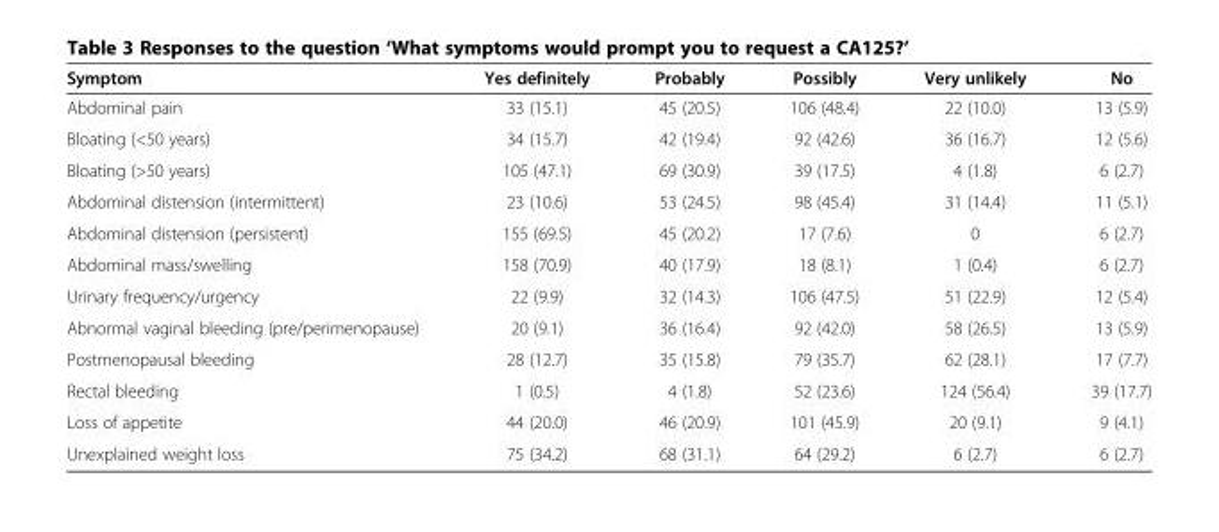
<table><thead><tr><td>Symptom</td><td>Yes definitely</td><td>Probably</td><td>Possibly</td><td>Very unlikely</td><td>No</td></tr></thead><tbody><tr><td>Abdominal pain</td><td>33 (15.1)</td><td>45 (20.5)</td><td>106 (48.4)</td><td>22 (10.0)</td><td>13 (5.9)</td></tr><tr><td>Bloating (&lt;50 years)</td><td>34 (15.7)</td><td>42 (19.4)</td><td>92 (42.6)</td><td>36 (16.7)</td><td>12 (5.6)</td></tr><tr><td>Bloating (&gt;50 years)</td><td>105 (47.1)</td><td>69 (30.9)</td><td>39 (17.5)</td><td>4 (1.8)</td><td>6 (2.7)</td></tr><tr><td>Abdominal distension (intermittent)</td><td>23 (10.6)</td><td>53 (24.5)</td><td>98 (45.4)</td><td>31 (14.4)</td><td>11 (5.1)</td></tr><tr><td>Abdominal distension (persistent)</td><td>155 (69.5)</td><td>45 (20.2)</td><td>17 (7.6)</td><td>0</td><td>6 (2.7)</td></tr><tr><td>Abdominal mass/swelling</td><td>158 (70.9)</td><td>40 (17.9)</td><td>18 (8.1)</td><td>1 (0.4)</td><td>6 (2.7)</td></tr><tr><td>Urinary frequency/urgency</td><td>22 (9.9)</td><td>32 (14.3)</td><td>106 (47.5)</td><td>51 (22.9)</td><td>12 (5.4)</td></tr><tr><td>Abnormal vaginal bleeding (pre/perimenopause)</td><td>20 (9.1)</td><td>36 (16.4)</td><td>92 (42.0)</td><td>58 (26.5)</td><td>13 (5.9)</td></tr><tr><td>Postmenopausal bleeding</td><td>28 (12.7)</td><td>35 (15.8)</td><td>79 (35.7)</td><td>62 (28.1)</td><td>17 (7.7)</td></tr><tr><td>Rectal bleeding</td><td>1 (0.5)</td><td>4 (1.8)</td><td>52 (23.6)</td><td>124 (56.4)</td><td>39 (17.7)</td></tr><tr><td>Loss of appetite</td><td>44 (20.0)</td><td>46 (20.9)</td><td>101 (45.9)</td><td>20 (9.1)</td><td>9 (4.1)</td></tr><tr><td>Unexplained weight loss</td><td>75 (34.2)</td><td>68 (31.1)</td><td>64 (29.2)</td><td>6 (2.7)</td><td>6 (2.7)</td></tr></tbody></table>